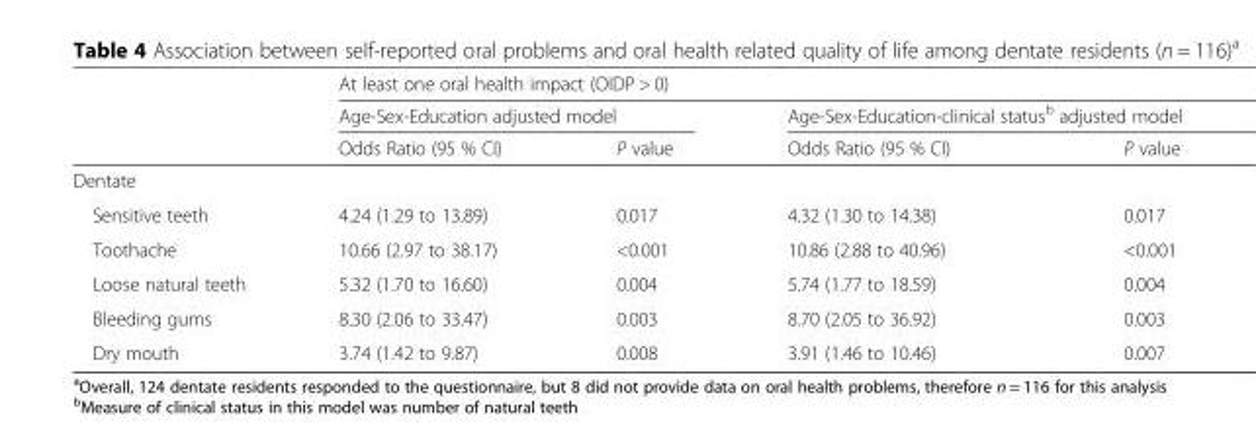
<table><thead><tr><td rowspan="3"></td><td colspan="4">At least one oral health impact (OIDP &gt; 0)</td></tr><tr><td colspan="2">Age-Sex-Education adjusted model</td><td colspan="2">Age-Sex-Education-clinical status<sup>b</sup> adjusted model</td></tr><tr><td>Odds Ratio (95 % CI)</td><td>P value</td><td>Odds Ratio (95 % CI)</td><td>P value</td></tr></thead><tbody><tr><td colspan="5">Dentate</td></tr><tr><td>Sensitive teeth</td><td>4.24 (1.29 to 13.89)</td><td>0.017</td><td>4.32 (1.30 to 14.38)</td><td>0.017</td></tr><tr><td>Toothache</td><td>10.66 (2.97 to 38.17)</td><td>&lt;0.001</td><td>10.86 (2.88 to 40.96)</td><td>&lt;0.001</td></tr><tr><td>Loose natural teeth</td><td>5.32 (1.70 to 16.60)</td><td>0.004</td><td>5.74 (1.77 to 18.59)</td><td>0.004</td></tr><tr><td>Bleeding gums</td><td>8.30 (2.06 to 33.47)</td><td>0.003</td><td>8.70 (2.05 to 36.92)</td><td>0.003</td></tr><tr><td>Dry mouth</td><td>3.74 (1.42 to 9.87)</td><td>0.008</td><td>3.91 (1.46 to 10.46)</td><td>0.007</td></tr></tbody></table>